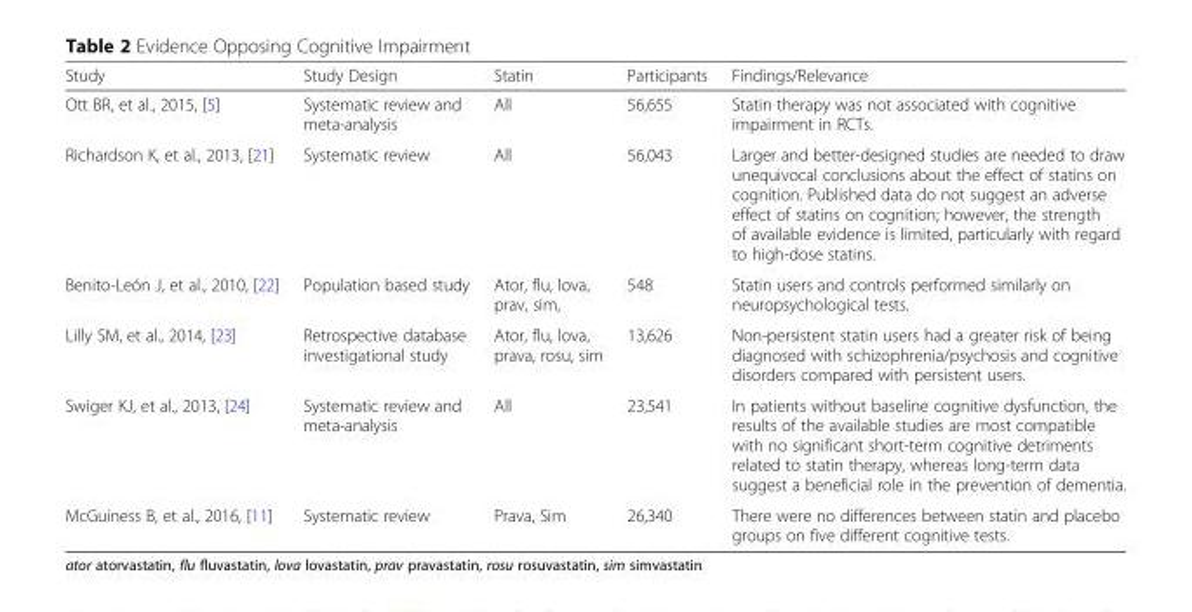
<table><thead><tr><td>Study</td><td>Study Design</td><td>Statin</td><td>Participants</td><td>Findings/Relevance</td></tr></thead><tbody><tr><td>Ott BR, et al., 2015, [5]</td><td>Systematic review and meta-analysis</td><td>All</td><td>56,655</td><td>Statin therapy was not associated with cognitive impairment in RCTs.</td></tr><tr><td>Richardson K, et al., 2013, [21]</td><td>Systematic review</td><td>All</td><td>56,043</td><td>Larger and better-designed studies are needed to draw unequivocal conclusions about the effect of statins on cognition. Published data do not suggest an adverse effect of statins on cognition; however, the strength of available evidence is limited, particularly with regard to high-dose statins.</td></tr><tr><td>Benito-León J, et al., 2010, [22]</td><td>Population based study</td><td>Ator, flu, lova, prav, sim,</td><td>548</td><td>Statin users and controls performed similarly on neuropsychological tests.</td></tr><tr><td>Lilly SM, et al., 2014, [23]</td><td>Retrospective database investigational study</td><td>Ator, flu, lova, prava, rosu, sim</td><td>13,626</td><td>Non-persistent statin users had a greater risk of being diagnosed with schizophrenia/psychosis and cognitive disorders compared with persistent users.</td></tr><tr><td>Swiger KJ, et al., 2013, [24]</td><td>Systematic review and meta-analysis</td><td>All</td><td>23,541</td><td>In patients without baseline cognitive dysfunction, the results of the available studies are most compatible with no significant short-term cognitive detriments related to statin therapy, whereas long-term data suggest a beneficial role in the prevention of dementia.</td></tr><tr><td>McGuiness B, et al., 2016, [11]</td><td>Systematic review</td><td>Prava, Sim</td><td>26,340</td><td>There were no differences between statin and placebo groups on five different cognitive tests.</td></tr></tbody></table>